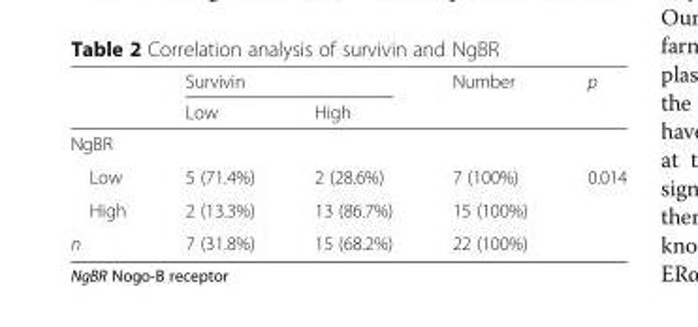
<table><thead><tr><td rowspan="2"></td><td colspan="2">Survivin</td><td rowspan="2">Number</td><td rowspan="2">p</td></tr><tr><td>Low</td><td>High</td></tr></thead><tbody><tr><td colspan="5">NgBR</td></tr><tr><td>Low</td><td>5 (71.4%)</td><td>2 (28.6%)</td><td>7 (100%)</td><td>0.014</td></tr><tr><td>High</td><td>2 (13.3%)</td><td>13 (86.7%)</td><td>15 (100%)</td><td></td></tr><tr><td>n</td><td>7 (31.8%)</td><td>15 (68.2%)</td><td>22 (100%)</td><td></td></tr></tbody></table>